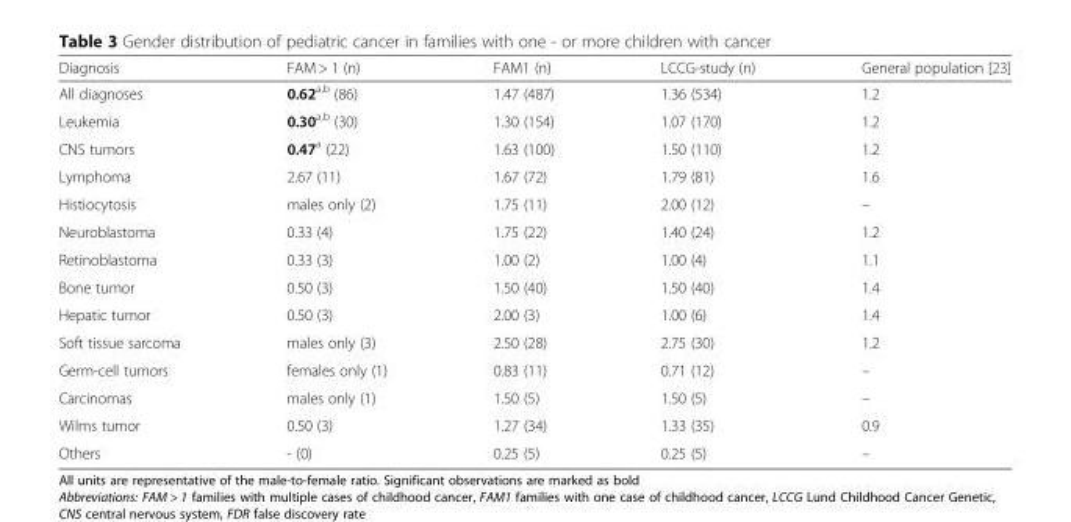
<table><thead><tr><td>Diagnosis</td><td>FAM &gt; 1 (n)</td><td>FAM1 (n)</td><td>LCCG-study (n)</td><td>General population [23]</td></tr></thead><tbody><tr><td>All diagnoses</td><td>0.62<sup>a,b</sup> (86)</td><td>1.47 (487)</td><td>1.36 (534)</td><td>1.2</td></tr><tr><td>Leukemia</td><td>0.30<sup>a,b</sup> (30)</td><td>1.30 (154)</td><td>1.07 (170)</td><td>1.2</td></tr><tr><td>CNS tumors</td><td>0.47<sup>a</sup> (22)</td><td>1.63 (100)</td><td>1.50 (110)</td><td>1.2</td></tr><tr><td>Lymphoma</td><td>2.67 (11)</td><td>1.67 (72)</td><td>1.79 (81)</td><td>1.6</td></tr><tr><td>Histiocytosis</td><td>males only (2)</td><td>1.75 (11)</td><td>2.00 (12)</td><td>–</td></tr><tr><td>Neuroblastoma</td><td>0.33 (4)</td><td>1.75 (22)</td><td>1.40 (24)</td><td>1.2</td></tr><tr><td>Retinoblastoma</td><td>0.33 (3)</td><td>1.00 (2)</td><td>1.00 (4)</td><td>1.1</td></tr><tr><td>Bone tumor</td><td>0.50 (3)</td><td>1.50 (40)</td><td>1.50 (40)</td><td>1.4</td></tr><tr><td>Hepatic tumor</td><td>0.50 (3)</td><td>2.00 (3)</td><td>1.00 (6)</td><td>1.4</td></tr><tr><td>Soft tissue sarcoma</td><td>males only (3)</td><td>2.50 (28)</td><td>2.75 (30)</td><td>1.2</td></tr><tr><td>Germ-cell tumors</td><td>females only (1)</td><td>0.83 (11)</td><td>0.71 (12)</td><td>–</td></tr><tr><td>Carcinomas</td><td>males only (1)</td><td>1.50 (5)</td><td>1.50 (5)</td><td>–</td></tr><tr><td>Wilms tumor</td><td>0.50 (3)</td><td>1.27 (34)</td><td>1.33 (35)</td><td>0.9</td></tr><tr><td>Others</td><td>- (0)</td><td>0.25 (5)</td><td>0.25 (5)</td><td>–</td></tr></tbody></table>